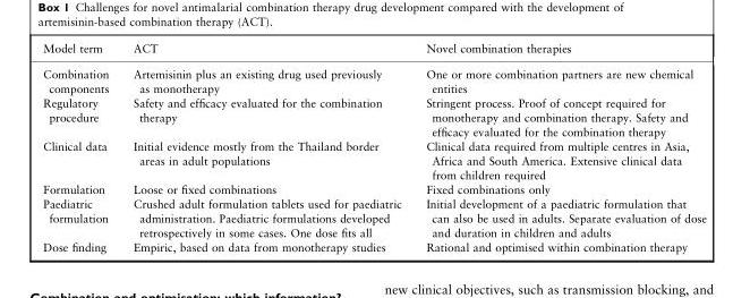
<table><thead><tr><td>Model term</td><td>ACT</td><td>Novel combination therapies</td></tr></thead><tbody><tr><td>Combination components</td><td>Artemisinin plus an existing drug used previously as monotherapy</td><td>One or more combination partners are new chemical entities</td></tr><tr><td>Regulatory procedure</td><td>Safety and efficacy evaluated for the combination therapy</td><td>Stringent process. Proof of concept required for monotherapy and combination therapy. Safety and efficacy evaluated for the combination therapy</td></tr><tr><td>Clinical data</td><td>Initial evidence mostly from the Thailand border areas in adult populations</td><td>Clinical data required from multiple centres in Asia, Africa and South America. Extensive clinical data from children required</td></tr><tr><td>Formulation</td><td>Loose or fixed combinations</td><td>Fixed combinations only</td></tr><tr><td>Paediatric formulation</td><td>Crushed adult formulation tablets used for paediatric administration. Paediatric formulations developed retrospectively in some cases. One dose fits all</td><td>Initial development of a paediatric formulation that can also be used in adults. Separate evaluation of dose and duration in children and adults</td></tr><tr><td>Dose finding</td><td>Empiric, based on data from monotherapy studies</td><td>Rational and optimised within combination therapy</td></tr></tbody></table>